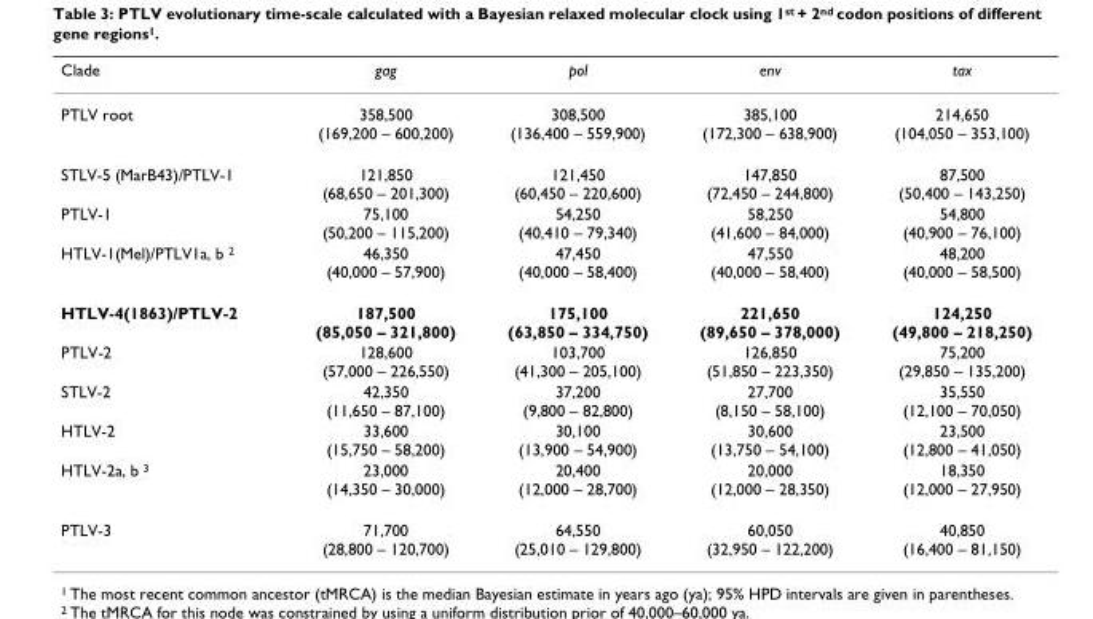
<table><thead><tr><td>Clade</td><td>gag</td><td>pol</td><td>env</td><td>tax</td></tr></thead><tbody><tr><td>PTLV root</td><td>358,500 (169,200 – 600,200)</td><td>308,500 (136,400 – 559,900)</td><td>385,100 (172,300 – 638,900)</td><td>214,650 (104,050 – 353,100)</td></tr><tr><td>STLV-5 (MarB43)/PTLV-1</td><td>121,850 (68,650 – 201,300)</td><td>121,450 (60,450 – 220,600)</td><td>147,850 (72,450 – 244,800)</td><td>87,500 (50,400 – 143,250)</td></tr><tr><td>PTLV-1</td><td>75,100 (50,200 – 115,200)</td><td>54,250 (40,410 – 79,340)</td><td>58,250 (41,600 – 84,000)</td><td>54,800 (40,900 – 76,100)</td></tr><tr><td>HTLV-1(Mel)/PTLV1a, b <sup>2</sup></td><td>46,350 (40,000 – 57,900)</td><td>47,450 (40,000 – 58,400)</td><td>47,550 (40,000 – 58,400)</td><td>48,200 (40,000 – 58,500)</td></tr><tr><td>HTLV-4(1863)/PTLV-2</td><td>187,500 (85,050 – 321,800)</td><td>175,100 (63,850 – 334,750)</td><td>221,650 (89,650 – 378,000)</td><td>124,250 (49,800 – 218,250)</td></tr><tr><td>PTLV-2</td><td>128,600 (57,000 – 226,550)</td><td>103,700 (41,300 – 205,100)</td><td>126,850 (51,850 – 223,350)</td><td>75,200 (29,850 – 135,200)</td></tr><tr><td>STLV-2</td><td>42,350 (11,650 – 87,100)</td><td>37,200 (9,800 – 82,800)</td><td>27,700 (8,150 – 58,100)</td><td>35,550 (12,100 – 70,050)</td></tr><tr><td>HTLV-2</td><td>33,600 (15,750 – 58,200)</td><td>30,100 (13,900 – 54,900)</td><td>30,600 (13,750 – 54,100)</td><td>23,500 (12,800 – 41,050)</td></tr><tr><td>HTLV-2a, b <sup>3</sup></td><td>23,000 (14,350 – 30,000)</td><td>20,400 (12,000 – 28,700)</td><td>20,000 (12,000 – 28,350)</td><td>18,350 (12,000 – 27,950)</td></tr><tr><td>PTLV-3</td><td>71,700 (28,800 – 120,700)</td><td>64,550 (25,010 – 129,800)</td><td>60,050 (32,950 – 122,200)</td><td>40,850 (16,400 – 81,150)</td></tr></tbody></table>